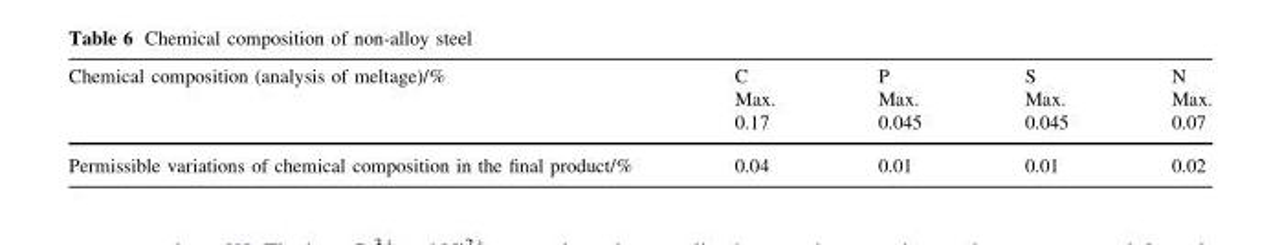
<table><thead><tr><td rowspan="3">Chemical composition (analysis of meltage)/%</td><td rowspan="3">C Max. 0.17</td><td rowspan="3">P Max. 0.045</td><td rowspan="3">S Max. 0.045</td><td rowspan="3">N Max. 0.07</td></tr><tr></tr><tr></tr></thead><tbody><tr><td>Permissible variations of chemical composition in the final product/%</td><td>0.04</td><td>0.01</td><td>0.01</td><td>0.02</td></tr></tbody></table>